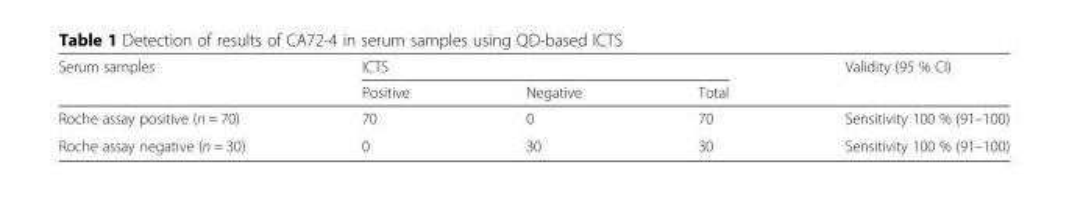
<table><thead><tr><td rowspan="2">Serum samples</td><td colspan="3">ICTS</td><td rowspan="2">Validity (95 % CI)</td></tr><tr><td>Positive</td><td>Negative</td><td>Total</td></tr></thead><tbody><tr><td>Roche assay positive (n = 70)</td><td>70</td><td>0</td><td>70</td><td>Sensitivity 100 % (91–100)</td></tr><tr><td>Roche assay negative (n = 30)</td><td>0</td><td>30</td><td>30</td><td>Sensitivity 100 % (91–100)</td></tr></tbody></table>